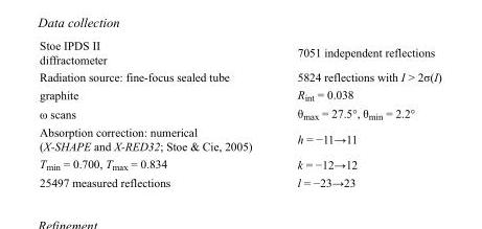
<table><tbody><tr><td>Stoe IPDS II diffractometer</td><td>7051 independent reflections</td></tr><tr><td>Radiation source: fine-focus sealed tube</td><td>5824 reflections with I &gt; 2σ(I)</td></tr><tr><td>graphite</td><td>R<sub>int</sub> = 0.038</td></tr><tr><td>ω scans</td><td>θ<sub>max</sub> = 27.5°, θ<sub>min</sub> = 2.2°</td></tr><tr><td>Absorption correction: numerical (X-SHAPE and X-RED32; Stoe &amp; Cie, 2005)</td><td>h = −11→11</td></tr><tr><td>T<sub>min</sub> = 0.700, T<sub>max</sub> = 0.834</td><td>k = −12→12</td></tr><tr><td>25497 measured reflections</td><td>l = −23→23</td></tr></tbody></table>